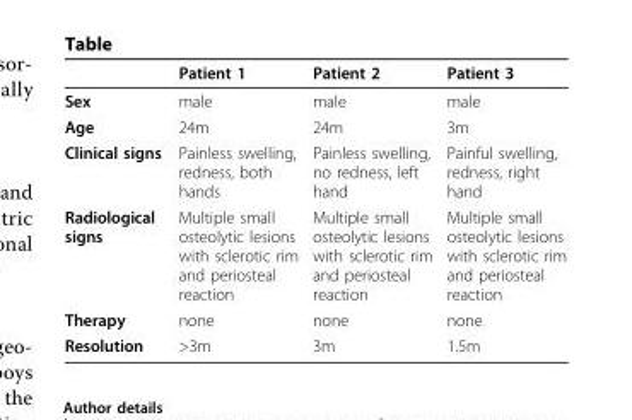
<table><thead><tr><td></td><td>Patient 1</td><td>Patient 2</td><td>Patient 3</td></tr></thead><tbody><tr><td>Sex</td><td>male</td><td>male</td><td>male</td></tr><tr><td>Age</td><td>24m</td><td>24m</td><td>3m</td></tr><tr><td>Clinical signs</td><td>Painless swelling, redness, both hands</td><td>Painless swelling, no redness, left hand</td><td>Painful swelling, redness, right hand</td></tr><tr><td>Radiological signs</td><td>Multiple small osteolytic lesions with sclerotic rim and periosteal reaction</td><td>Multiple small osteolytic lesions with sclerotic rim and periosteal reaction</td><td>Multiple small osteolytic lesions with sclerotic rim and periosteal reaction</td></tr><tr><td>Therapy</td><td>none</td><td>none</td><td>none</td></tr><tr><td>Resolution</td><td>&gt;3m</td><td>3m</td><td>1.5m</td></tr></tbody></table>